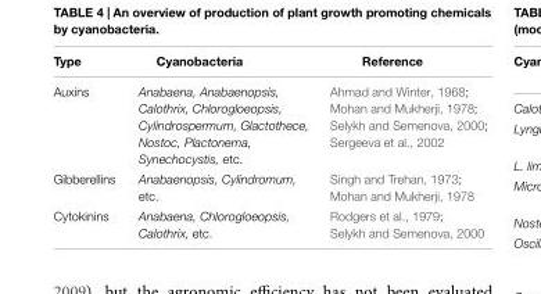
<table><thead><tr><td>Type</td><td>Cyanobacteria</td><td>Reference</td></tr></thead><tbody><tr><td>Auxins</td><td>Anabaena, Anabaenopsis, Calothrix, Chlorogloeopsis, Cylindrospermum, Glactothece, Nostoc, Plactonema, Synechocystis, etc.</td><td>Ahmad and Winter, 1968; Mohan and Mukherji, 1978; Selykh and Semenova, 2000; Sergeeva et al., 2002</td></tr><tr><td>Gibberellins</td><td>Anabaenopsis, Cylindromum, etc.</td><td>Singh and Trehan, 1973; Mohan and Mukherji, 1978</td></tr><tr><td>Cytokinins</td><td>Anabaena, Chlorogloeopsis, Calothrix, etc.</td><td>Rodgers et al., 1979; Selykh and Semenova, 2000</td></tr></tbody></table>